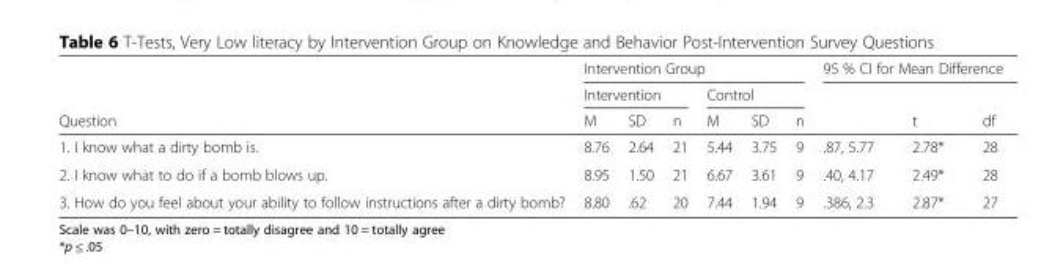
<table><thead><tr><td rowspan="3">Question</td><td colspan="6">Intervention Group</td><td colspan="3">95 % CI for Mean Difference</td></tr><tr><td colspan="3">Intervention</td><td colspan="3">Control</td><td rowspan="2"></td><td rowspan="2">t</td><td rowspan="2">df</td></tr><tr><td>M</td><td>SD</td><td>n</td><td>M</td><td>SD</td><td>n</td></tr></thead><tbody><tr><td>1. I know what a dirty bomb is.</td><td>8.76</td><td>2.64</td><td>21</td><td>5.44</td><td>3.75</td><td>9</td><td>.87, 5.77</td><td>2.78*</td><td>28</td></tr><tr><td>2. I know what to do if a bomb blows up.</td><td>8.95</td><td>1.50</td><td>21</td><td>6.67</td><td>3.61</td><td>9</td><td>.40, 4.17</td><td>2.49*</td><td>28</td></tr><tr><td>3. How do you feel about your ability to follow instructions after a dirty bomb?</td><td>8.80</td><td>.62</td><td>20</td><td>7.44</td><td>1.94</td><td>9</td><td>.386, 2.3</td><td>2.87*</td><td>27</td></tr></tbody></table>